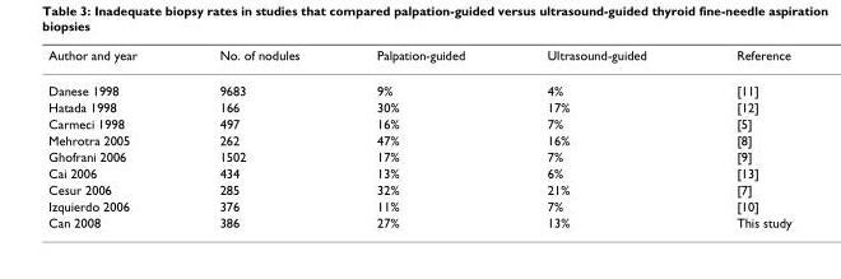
<table><thead><tr><td>Author and year</td><td>No. of nodules</td><td>Palpation-guided</td><td>Ultrasound-guided</td><td>Reference</td></tr></thead><tbody><tr><td>Danese 1998</td><td>9683</td><td>9%</td><td>4%</td><td>[11]</td></tr><tr><td>Hatada 1998</td><td>166</td><td>30%</td><td>17%</td><td>[12]</td></tr><tr><td>Carmeci 1998</td><td>497</td><td>16%</td><td>7%</td><td>[5]</td></tr><tr><td>Mehrotra 2005</td><td>262</td><td>47%</td><td>16%</td><td>[8]</td></tr><tr><td>Ghofrani 2006</td><td>1502</td><td>17%</td><td>7%</td><td>[9]</td></tr><tr><td>Cai 2006</td><td>434</td><td>13%</td><td>6%</td><td>[13]</td></tr><tr><td>Cesur 2006</td><td>285</td><td>32%</td><td>21%</td><td>[7]</td></tr><tr><td>Izquierdo 2006</td><td>376</td><td>11%</td><td>7%</td><td>[10]</td></tr><tr><td>Can 2008</td><td>386</td><td>27%</td><td>13%</td><td>This study</td></tr></tbody></table>